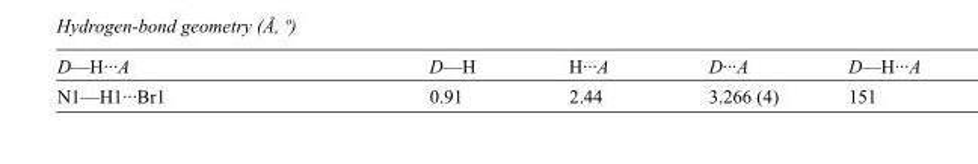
<table><tbody><tr><td>D—H···A</td><td>D—H</td><td>H···A</td><td>D···A</td><td>D—H···A</td></tr><tr><td>N1—H1···Br1</td><td>0.91</td><td>2.44</td><td>3.266 (4)</td><td>151</td></tr></tbody></table>